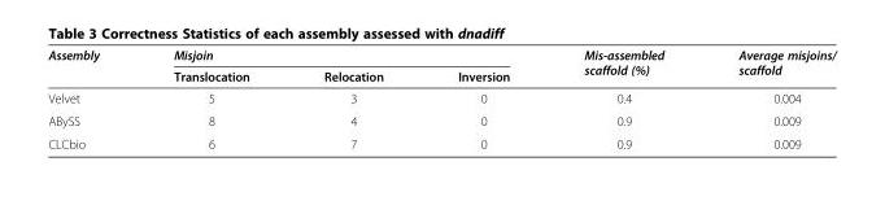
<table><thead><tr><td rowspan="2">Assembly</td><td colspan="3">Misjoin</td><td rowspan="2">Mis-assembled scaffold (%)</td><td rowspan="2">Average misjoins/ scaffold</td></tr><tr><td>Translocation</td><td>Relocation</td><td>Inversion</td></tr></thead><tbody><tr><td>Velvet</td><td>5</td><td>3</td><td>0</td><td>0.4</td><td>0.004</td></tr><tr><td>ABySS</td><td>8</td><td>4</td><td>0</td><td>0.9</td><td>0.009</td></tr><tr><td>CLCbio</td><td>6</td><td>7</td><td>0</td><td>0.9</td><td>0.009</td></tr></tbody></table>